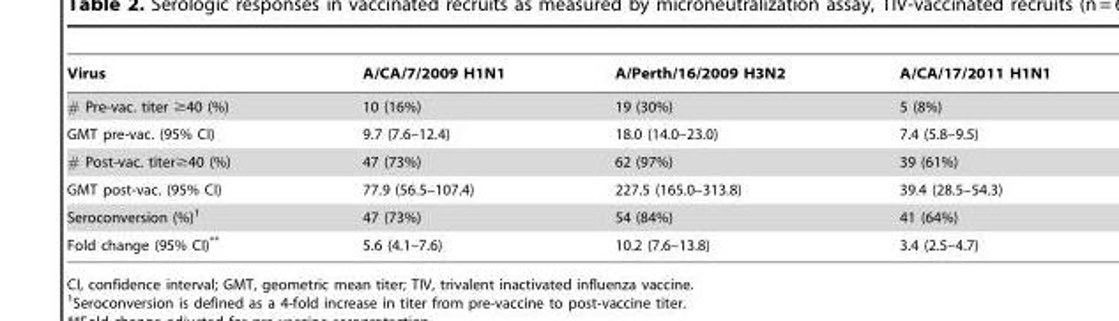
<table><thead><tr><td>Virus</td><td>A/CA/7/2009 H1N1</td><td>A/Perth/16/2009 H3N2</td><td>A/CA/17/2011 H1N1</td></tr></thead><tbody><tr><td># Pre-vac. titer ≥40 (%)</td><td>10 (16%)</td><td>19 (30%)</td><td>5 (8%)</td></tr><tr><td>GMT pre-vac. (95% CI)</td><td>9.7 (7.6–12.4)</td><td>18.0 (14.0–23.0)</td><td>7.4 (5.8–9.5)</td></tr><tr><td># Post-vac. titer≥40 (%)</td><td>47 (73%)</td><td>62 (97%)</td><td>39 (61%)</td></tr><tr><td>GMT post-vac. (95% CI)</td><td>77.9 (56.5–107.4)</td><td>227.5 (165.0–313.8)</td><td>39.4 (28.5–54.3)</td></tr><tr><td>Seroconversion (%)<sup>1</sup></td><td>47 (73%)</td><td>54 (84%)</td><td>41 (64%)</td></tr><tr><td>Fold change (95% CI)**</td><td>5.6 (4.1–7.6)</td><td>10.2 (7.6–13.8)</td><td>3.4 (2.5–4.7)</td></tr></tbody></table>